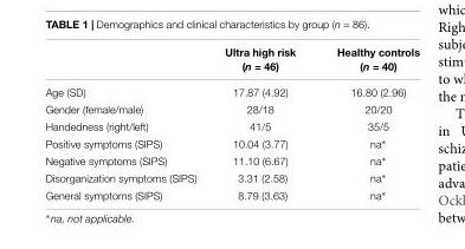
<table><thead><tr><td></td><td>Ultra high risk (n = 46)</td><td>Healthy controls (n = 40)</td></tr></thead><tbody><tr><td>Age (SD)</td><td>17.87 (4.92)</td><td>16.80 (2.96)</td></tr><tr><td>Gender (female/male)</td><td>28/18</td><td>20/20</td></tr><tr><td>Handedness (right/left)</td><td>41/5</td><td>35/5</td></tr><tr><td>Positive symptoms (SIPS)</td><td>10.04 (3.77)</td><td>na∗</td></tr><tr><td>Negative symptoms (SIPS)</td><td>11.10 (6.67)</td><td>na∗</td></tr><tr><td>Disorganization symptoms (SIPS)</td><td>3.31 (2.58)</td><td>na∗</td></tr><tr><td>General symptoms (SIPS)</td><td>8.79 (3.63)</td><td>na∗</td></tr></tbody></table>